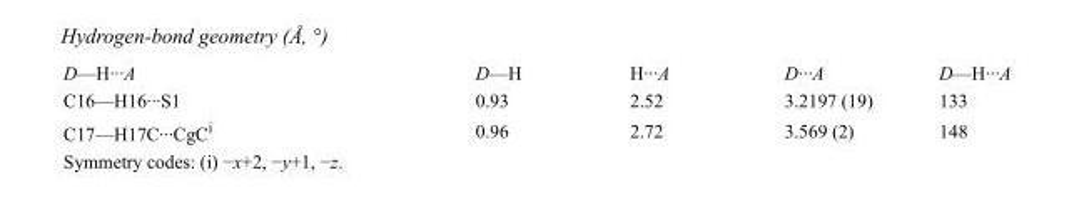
<table><tbody><tr><td>D—H···A</td><td>D—H</td><td>H···A</td><td>D···A</td><td>D—H···A</td></tr><tr><td>C16—H16···S1</td><td>0.93</td><td>2.52</td><td>3.2197 (19)</td><td>133</td></tr><tr><td>C17—H17C···CgC<sup>i</sup></td><td>0.96</td><td>2.72</td><td>3.569 (2)</td><td>148</td></tr></tbody></table>